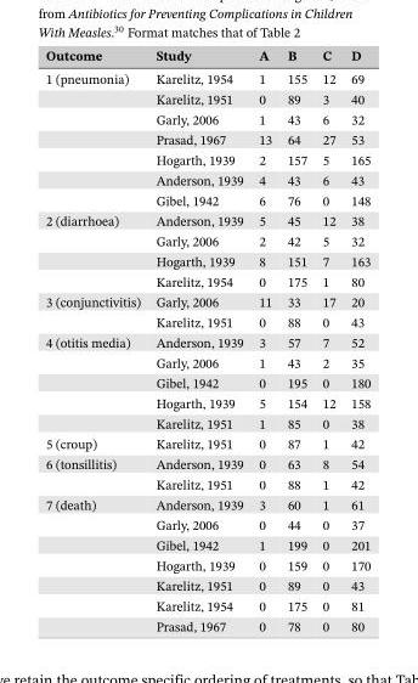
<table><thead><tr><td>Outcome</td><td>Study</td><td>A</td><td>B</td><td>C</td><td>D</td></tr></thead><tbody><tr><td rowspan="7">1 (pneumonia)</td><td>Karelitz, 1954</td><td>1</td><td>155</td><td>12</td><td>69</td></tr><tr><td>Karelitz, 1951</td><td>0</td><td>89</td><td>3</td><td>40</td></tr><tr><td>Garly, 2006</td><td>1</td><td>43</td><td>6</td><td>32</td></tr><tr><td>Prasad, 1967</td><td>13</td><td>64</td><td>27</td><td>53</td></tr><tr><td>Hogarth, 1939</td><td>2</td><td>157</td><td>5</td><td>165</td></tr><tr><td>Anderson, 1939</td><td>4</td><td>43</td><td>6</td><td>43</td></tr><tr><td>Gibel, 1942</td><td>6</td><td>76</td><td>0</td><td>148</td></tr><tr><td rowspan="4">2 (diarrhoea)</td><td>Anderson, 1939</td><td>5</td><td>45</td><td>12</td><td>38</td></tr><tr><td>Garly, 2006</td><td>2</td><td>42</td><td>5</td><td>32</td></tr><tr><td>Hogarth, 1939</td><td>8</td><td>151</td><td>7</td><td>163</td></tr><tr><td>Karelitz, 1954</td><td>0</td><td>175</td><td>1</td><td>80</td></tr><tr><td rowspan="2">3 (conjunctivitis)</td><td>Garly, 2006</td><td>11</td><td>33</td><td>17</td><td>20</td></tr><tr><td>Karelitz, 1951</td><td>0</td><td>88</td><td>0</td><td>43</td></tr><tr><td rowspan="5">4 (otitis media)</td><td>Anderson, 1939</td><td>3</td><td>57</td><td>7</td><td>52</td></tr><tr><td>Garly, 2006</td><td>1</td><td>43</td><td>2</td><td>35</td></tr><tr><td>Gibel, 1942</td><td>0</td><td>195</td><td>0</td><td>180</td></tr><tr><td>Hogarth, 1939</td><td>5</td><td>154</td><td>12</td><td>158</td></tr><tr><td>Karelitz, 1951</td><td>1</td><td>85</td><td>0</td><td>38</td></tr><tr><td>5 (croup)</td><td>Karelitz, 1951</td><td>0</td><td>87</td><td>1</td><td>42</td></tr><tr><td rowspan="2">6 (tonsillitis)</td><td>Anderson, 1939</td><td>0</td><td>63</td><td>8</td><td>54</td></tr><tr><td>Karelitz, 1951</td><td>0</td><td>88</td><td>1</td><td>42</td></tr><tr><td rowspan="7">7 (death)</td><td>Anderson, 1939</td><td>3</td><td>60</td><td>1</td><td>61</td></tr><tr><td>Garly, 2006</td><td>0</td><td>44</td><td>0</td><td>37</td></tr><tr><td>Gibel, 1942</td><td>1</td><td>199</td><td>0</td><td>201</td></tr><tr><td>Hogarth, 1939</td><td>0</td><td>159</td><td>0</td><td>170</td></tr><tr><td>Karelitz, 1951</td><td>0</td><td>89</td><td>0</td><td>43</td></tr><tr><td>Karelitz, 1954</td><td>0</td><td>175</td><td>0</td><td>81</td></tr><tr><td>Prasad, 1967</td><td>0</td><td>78</td><td>0</td><td>80</td></tr></tbody></table>